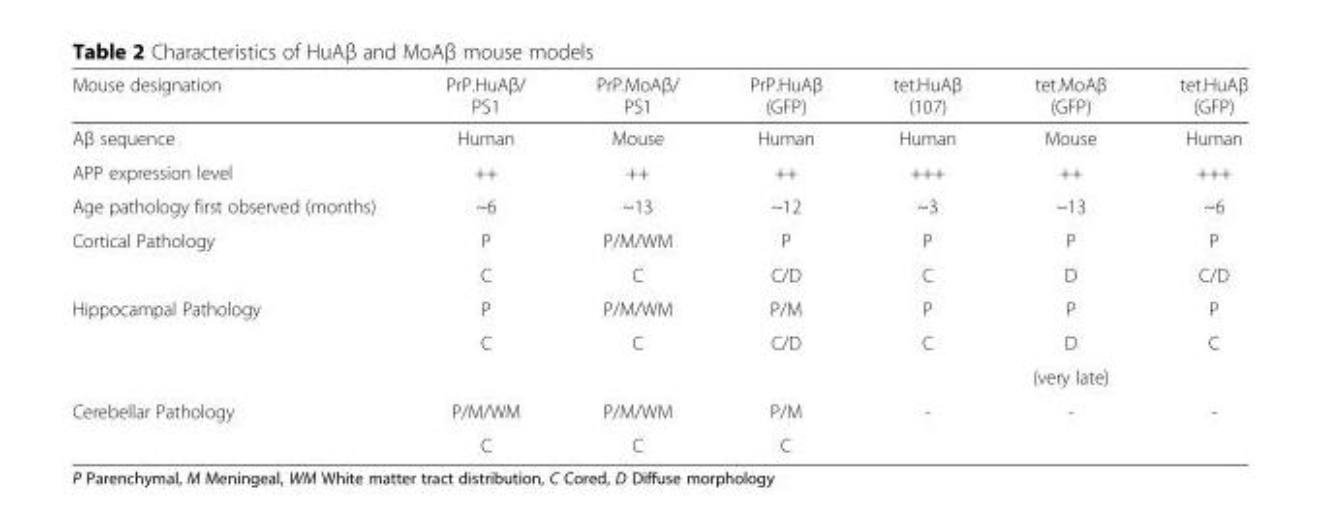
<table><thead><tr><td>Mouse designation</td><td>PrP.HuAβ/ PS1</td><td>PrP.MoAβ/ PS1</td><td>PrP.HuAβ (GFP)</td><td>tet.HuAβ (107)</td><td>tet.MoAβ (GFP)</td><td>tet.HuAβ (GFP)</td></tr></thead><tbody><tr><td>Aβ sequence</td><td>Human</td><td>Mouse</td><td>Human</td><td>Human</td><td>Mouse</td><td>Human</td></tr><tr><td>APP expression level</td><td>++</td><td>++</td><td>++</td><td>+++</td><td>++</td><td>+++</td></tr><tr><td>Age pathology first observed (months)</td><td>~6</td><td>~13</td><td>~12</td><td>~3</td><td>~13</td><td>~6</td></tr><tr><td rowspan="2">Cortical Pathology</td><td>P</td><td>P/M/WM</td><td>P</td><td>P</td><td>P</td><td>P</td></tr><tr><td>C</td><td>C</td><td>C/D</td><td>C</td><td>D</td><td>C/D</td></tr><tr><td rowspan="3">Hippocampal Pathology</td><td>P</td><td>P/M/WM</td><td>P/M</td><td>P</td><td>P</td><td>P</td></tr><tr><td rowspan="2">C</td><td rowspan="2">C</td><td rowspan="2">C/D</td><td rowspan="2">C</td><td>D</td><td rowspan="2">C</td></tr><tr><td>(very late)</td></tr><tr><td rowspan="2">Cerebellar Pathology</td><td>P/M/WM</td><td>P/M/WM</td><td>P/M</td><td rowspan="2">-</td><td rowspan="2">-</td><td rowspan="2">-</td></tr><tr><td>C</td><td>C</td><td>C</td></tr></tbody></table>